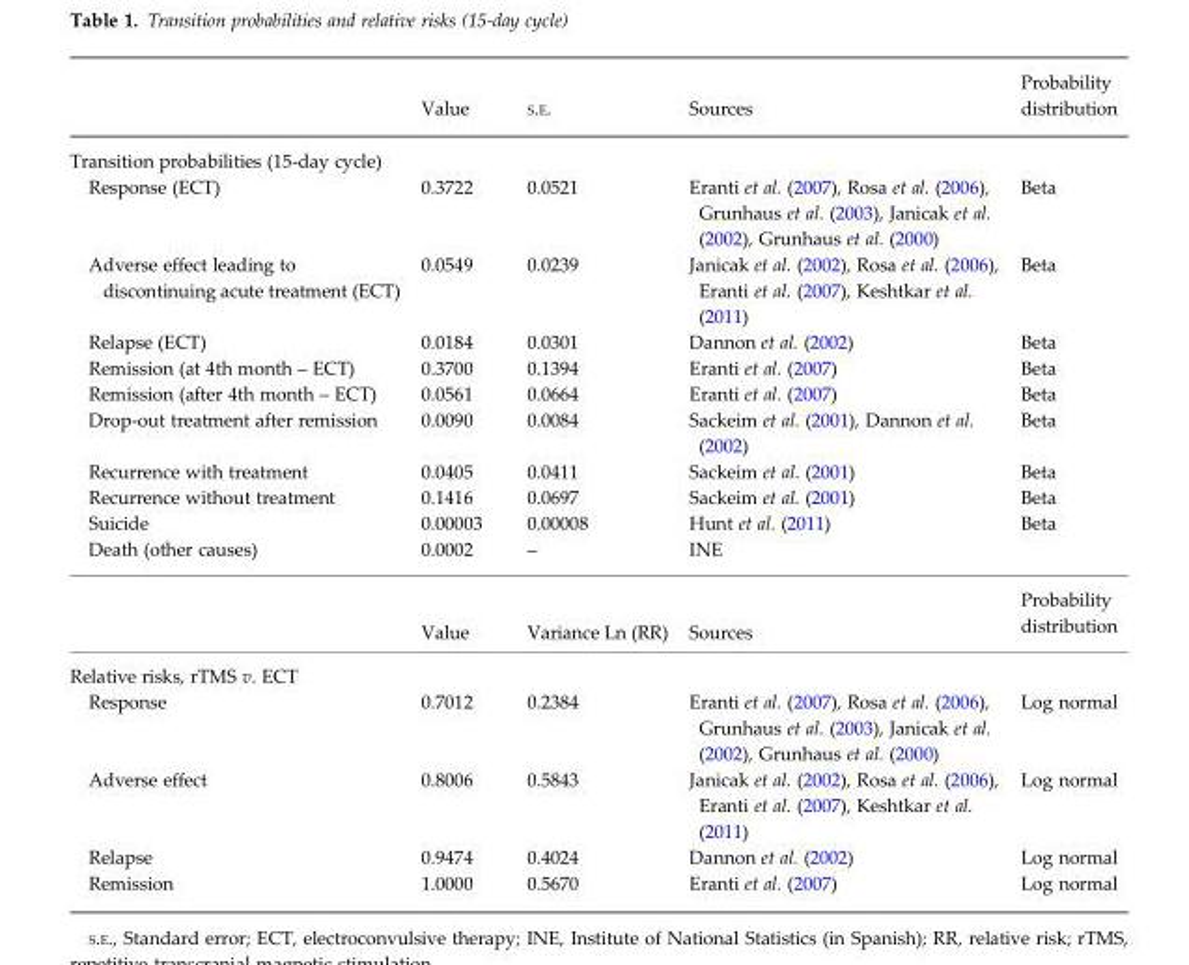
<table><thead><tr><td></td><td>Value</td><td>S.E.</td><td>Sources</td><td>Probability distribution</td></tr></thead><tbody><tr><td colspan="5">Transition probabilities (15-day cycle)</td></tr><tr><td>Response (ECT)</td><td>0.3722</td><td>0.0521</td><td>Eranti et al. (2007), Rosa et al. (2006), Grunhaus et al. (2003), Janicak et al. (2002), Grunhaus et al. (2000)</td><td>Beta</td></tr><tr><td>Adverse effect leading to discontinuing acute treatment (ECT)</td><td>0.0549</td><td>0.0239</td><td>Janicak et al. (2002), Rosa et al. (2006), Eranti et al. (2007), Keshtkar et al. (2011)</td><td>Beta</td></tr><tr><td>Relapse (ECT)</td><td>0.0184</td><td>0.0301</td><td>Dannon et al. (2002)</td><td>Beta</td></tr><tr><td>Remission (at 4th month – ECT)</td><td>0.3700</td><td>0.1394</td><td>Eranti et al. (2007)</td><td>Beta</td></tr><tr><td>Remission (after 4th month – ECT)</td><td>0.0561</td><td>0.0664</td><td>Eranti et al. (2007)</td><td>Beta</td></tr><tr><td>Drop-out treatment after remission</td><td>0.0090</td><td>0.0084</td><td>Sackeim et al. (2001), Dannon et al. (2002)</td><td>Beta</td></tr><tr><td>Recurrence with treatment</td><td>0.0405</td><td>0.0411</td><td>Sackeim et al. (2001)</td><td>Beta</td></tr><tr><td>Recurrence without treatment</td><td>0.1416</td><td>0.0697</td><td>Sackeim et al. (2001)</td><td>Beta</td></tr><tr><td>Suicide</td><td>0.00003</td><td>0.00008</td><td>Hunt et al. (2011)</td><td>Beta</td></tr><tr><td rowspan="2">Death (other causes)</td><td>0.0002</td><td>–</td><td>INE</td><td></td></tr><tr><td>Value</td><td>Variance Ln (RR)</td><td>Sources</td><td>Probability distribution</td></tr><tr><td colspan="5">Relative risks, rTMS v. ECT</td></tr><tr><td>Response</td><td>0.7012</td><td>0.2384</td><td>Eranti et al. (2007), Rosa et al. (2006), Grunhaus et al. (2003), Janicak et al. (2002), Grunhaus et al. (2000)</td><td>Log normal</td></tr><tr><td>Adverse effect</td><td>0.8006</td><td>0.5843</td><td>Janicak et al. (2002), Rosa et al. (2006), Eranti et al. (2007), Keshtkar et al. (2011)</td><td>Log normal</td></tr><tr><td>Relapse</td><td>0.9474</td><td>0.4024</td><td>Dannon et al. (2002)</td><td>Log normal</td></tr><tr><td>Remission</td><td>1.0000</td><td>0.5670</td><td>Eranti et al. (2007)</td><td>Log normal</td></tr></tbody></table>